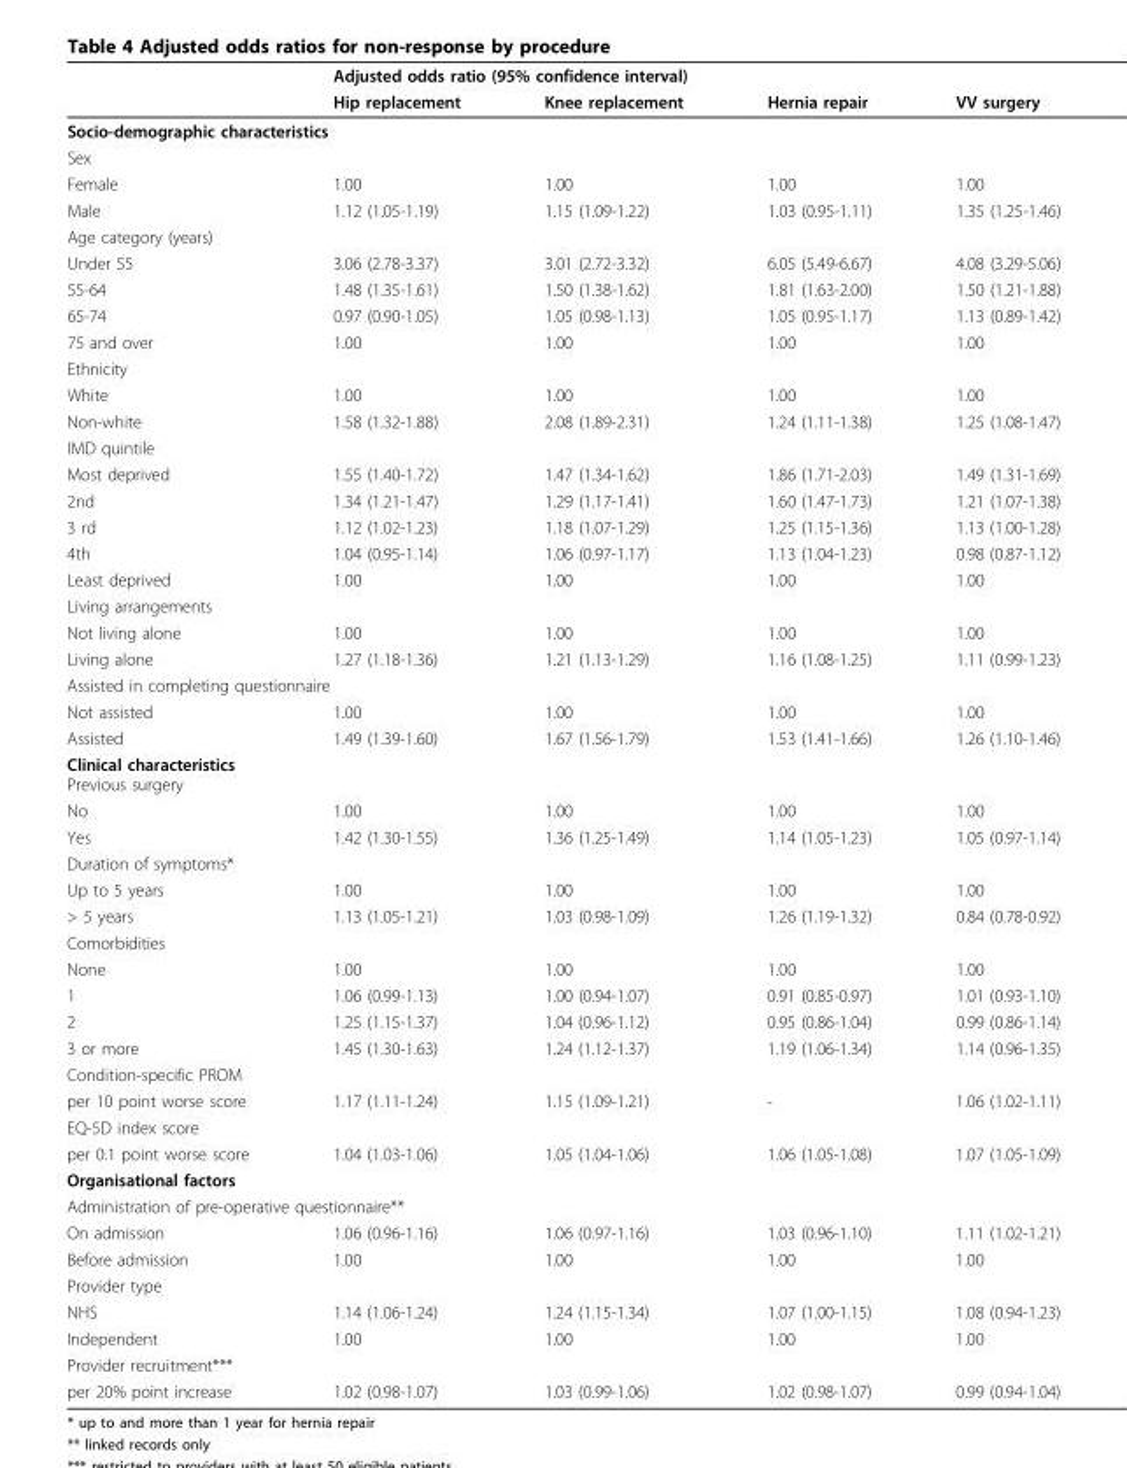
<table><thead><tr><td rowspan="2"></td><td colspan="4">Adjusted odds ratio (95% confidence interval)</td></tr><tr><td>Hip replacement</td><td>Knee replacement</td><td>Hernia repair</td><td>VV surgery</td></tr></thead><tbody><tr><td colspan="5">Socio-demographic characteristics</td></tr><tr><td colspan="5">Sex</td></tr><tr><td>Female</td><td>1.00</td><td>1.00</td><td>1.00</td><td>1.00</td></tr><tr><td>Male</td><td>1.12 (1.05-1.19)</td><td>1.15 (1.09-1.22)</td><td>1.03 (0.95-1.11)</td><td>1.35 (1.25-1.46)</td></tr><tr><td colspan="5">Age category (years)</td></tr><tr><td>Under 55</td><td>3.06 (2.78-3.37)</td><td>3.01 (2.72-3.32)</td><td>6.05 (5.49-6.67)</td><td>4.08 (3.29-5.06)</td></tr><tr><td>55-64</td><td>1.48 (1.35-1.61)</td><td>1.50 (1.38-1.62)</td><td>1.81 (1.63-2.00)</td><td>1.50 (1.21-1.88)</td></tr><tr><td>65-74</td><td>0.97 (0.90-1.05)</td><td>1.05 (0.98-1.13)</td><td>1.05 (0.95-1.17)</td><td>1.13 (0.89-1.42)</td></tr><tr><td>75 and over</td><td>1.00</td><td>1.00</td><td>1.00</td><td>1.00</td></tr><tr><td colspan="5">Ethnicity</td></tr><tr><td>White</td><td>1.00</td><td>1.00</td><td>1.00</td><td>1.00</td></tr><tr><td>Non-white</td><td>1.58 (1.32-1.88)</td><td>2.08 (1.89-2.31)</td><td>1.24 (1.11-1.38)</td><td>1.25 (1.08-1.47)</td></tr><tr><td colspan="5">IMD quintile</td></tr><tr><td>Most deprived</td><td>1.55 (1.40-1.72)</td><td>1.47 (1.34-1.62)</td><td>1.86 (1.71-2.03)</td><td>1.49 (1.31-1.69)</td></tr><tr><td>2nd</td><td>1.34 (1.21-1.47)</td><td>1.29 (1.17-1.41)</td><td>1.60 (1.47-1.73)</td><td>1.21 (1.07-1.38)</td></tr><tr><td>3 rd</td><td>1.12 (1.02-1.23)</td><td>1.18 (1.07-1.29)</td><td>1.25 (1.15-1.36)</td><td>1.13 (1.00-1.28)</td></tr><tr><td>4th</td><td>1.04 (0.95-1.14)</td><td>1.06 (0.97-1.17)</td><td>1.13 (1.04-1.23)</td><td>0.98 (0.87-1.12)</td></tr><tr><td>Least deprived</td><td>1.00</td><td>1.00</td><td>1.00</td><td>1.00</td></tr><tr><td colspan="5">Living arrangements</td></tr><tr><td>Not living alone</td><td>1.00</td><td>1.00</td><td>1.00</td><td>1.00</td></tr><tr><td>Living alone</td><td>1.27 (1.18-1.36)</td><td>1.21 (1.13-1.29)</td><td>1.16 (1.08-1.25)</td><td>1.11 (0.99-1.23)</td></tr><tr><td colspan="5">Assisted in completing questionnaire</td></tr><tr><td>Not assisted</td><td>1.00</td><td>1.00</td><td>1.00</td><td>1.00</td></tr><tr><td>Assisted</td><td>1.49 (1.39-1.60)</td><td>1.67 (1.56-1.79)</td><td>1.53 (1.41-1.66)</td><td>1.26 (1.10-1.46)</td></tr><tr><td colspan="5">Clinical characteristics Previous surgery</td></tr><tr><td>No</td><td>1.00</td><td>1.00</td><td>1.00</td><td>1.00</td></tr><tr><td>Yes</td><td>1.42 (1.30-1.55)</td><td>1.36 (1.25-1.49)</td><td>1.14 (1.05-1.23)</td><td>1.05 (0.97-1.14)</td></tr><tr><td colspan="5">Duration of symptoms*</td></tr><tr><td>Up to 5 years</td><td>1.00</td><td>1.00</td><td>1.00</td><td>1.00</td></tr><tr><td>&gt; 5 years</td><td>1.13 (1.05-1.21)</td><td>1.03 (0.98-1.09)</td><td>1.26 (1.19-1.32)</td><td>0.84 (0.78-0.92)</td></tr><tr><td colspan="5">Comorbidities</td></tr><tr><td>None</td><td>1.00</td><td>1.00</td><td>1.00</td><td>1.00</td></tr><tr><td>1</td><td>1.06 (0.99-1.13)</td><td>1.00 (0.94-1.07)</td><td>0.91 (0.85-0.97)</td><td>1.01 (0.93-1.10)</td></tr><tr><td>2</td><td>1.25 (1.15-1.37)</td><td>1.04 (0.96-1.12)</td><td>0.95 (0.86-1.04)</td><td>0.99 (0.86-1.14)</td></tr><tr><td>3 or more</td><td>1.45 (1.30-1.63)</td><td>1.24 (1.12-1.37)</td><td>1.19 (1.06-1.34)</td><td>1.14 (0.96-1.35)</td></tr><tr><td colspan="5">Condition-specific PROM</td></tr><tr><td>per 10 point worse score</td><td>1.17 (1.11-1.24)</td><td>1.15 (1.09-1.21)</td><td>-</td><td>1.06 (1.02-1.11)</td></tr><tr><td colspan="5">EQ-5D index score</td></tr><tr><td>per 0.1 point worse score</td><td>1.04 (1.03-1.06)</td><td>1.05 (1.04-1.06)</td><td>1.06 (1.05-1.08)</td><td>1.07 (1.05-1.09)</td></tr><tr><td colspan="5">Organisational factors</td></tr><tr><td colspan="5">Administration of pre-operative questionnaire**</td></tr><tr><td>On admission</td><td>1.06 (0.96-1.16)</td><td>1.06 (0.97-1.16)</td><td>1.03 (0.96-1.10)</td><td>1.11 (1.02-1.21)</td></tr><tr><td>Before admission</td><td>1.00</td><td>1.00</td><td>1.00</td><td>1.00</td></tr><tr><td colspan="5">Provider type</td></tr><tr><td>NHS</td><td>1.14 (1.06-1.24)</td><td>1.24 (1.15-1.34)</td><td>1.07 (1.00-1.15)</td><td>1.08 (0.94-1.23)</td></tr><tr><td>Independent</td><td>1.00</td><td>1.00</td><td>1.00</td><td>1.00</td></tr><tr><td colspan="5">Provider recruitment***</td></tr><tr><td>per 20% point increase</td><td>1.02 (0.98-1.07)</td><td>1.03 (0.99-1.06)</td><td>1.02 (0.98-1.07)</td><td>0.99 (0.94-1.04)</td></tr></tbody></table>